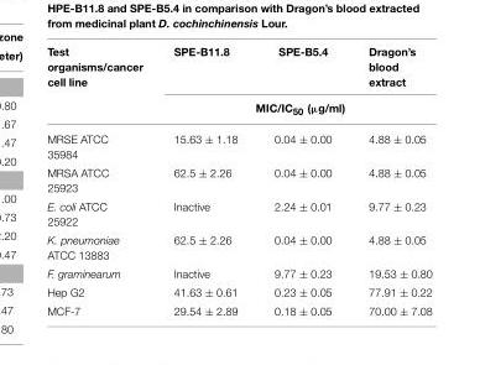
<table><thead><tr><td rowspan="2">Test organisms/cancer cell line</td><td>SPE-B11.8</td><td>SPE-B5.4</td><td>Dragon’s blood extract</td></tr><tr><td colspan="3">MIC/IC<sub>50</sub> (µg/ml)</td></tr></thead><tbody><tr><td>MRSE ATCC 35984</td><td>15.63 ± 1.18</td><td>0.04 ± 0.00</td><td>4.88 ± 0.05</td></tr><tr><td>MRSA ATCC 25923</td><td>62.5 ± 2.26</td><td>0.04 ± 0.00</td><td>4.88 ± 0.05</td></tr><tr><td>E. coli ATCC 25922</td><td>Inactive</td><td>2.24 ± 0.01</td><td>9.77 ± 0.23</td></tr><tr><td>K. pneumoniae ATCC 13883</td><td>62.5 ± 2.26</td><td>0.04 ± 0.00</td><td>4.88 ± 0.05</td></tr><tr><td>F. graminearum</td><td>Inactive</td><td>9.77 ± 0.23</td><td>19.53 ± 0.80</td></tr><tr><td>Hep G2</td><td>41.63 ± 0.61</td><td>0.23 ± 0.05</td><td>77.91 ± 0.22</td></tr><tr><td>MCF-7</td><td>29.54 ± 2.89</td><td>0.18 ± 0.05</td><td>70.00 ± 7.08</td></tr></tbody></table>